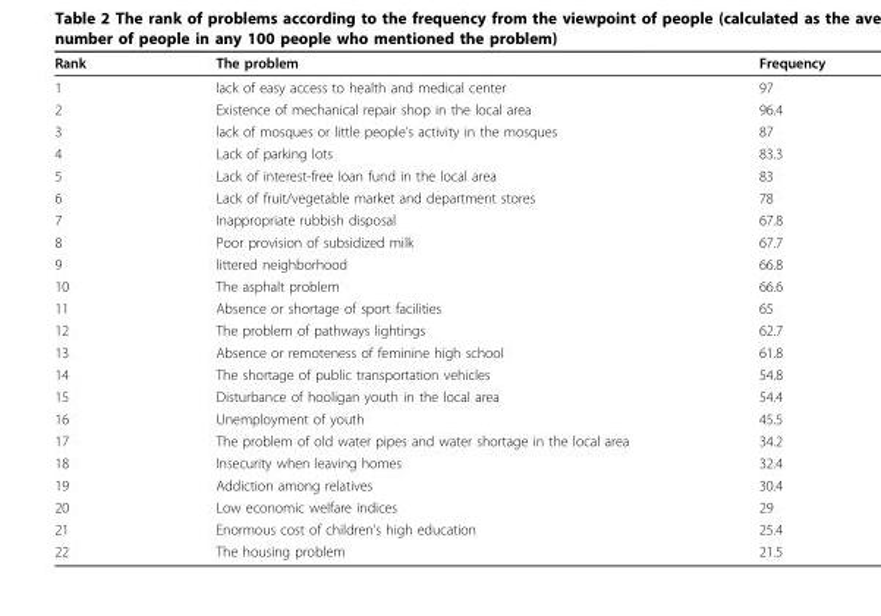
<table><thead><tr><td>Rank</td><td>The problem</td><td>Frequency</td></tr></thead><tbody><tr><td>1</td><td>lack of easy access to health and medical center</td><td>97</td></tr><tr><td>2</td><td>Existence of mechanical repair shop in the local area</td><td>96.4</td></tr><tr><td>3</td><td>lack of mosques or little people’s activity in the mosques</td><td>87</td></tr><tr><td>4</td><td>Lack of parking lots</td><td>83.3</td></tr><tr><td>5</td><td>Lack of interest-free loan fund in the local area</td><td>83</td></tr><tr><td>6</td><td>Lack of fruit/vegetable market and department stores</td><td>78</td></tr><tr><td>7</td><td>Inappropriate rubbish disposal</td><td>67.8</td></tr><tr><td>8</td><td>Poor provision of subsidized milk</td><td>67.7</td></tr><tr><td>9</td><td>littered neighborhood</td><td>66.8</td></tr><tr><td>10</td><td>The asphalt problem</td><td>66.6</td></tr><tr><td>11</td><td>Absence or shortage of sport facilities</td><td>65</td></tr><tr><td>12</td><td>The problem of pathways lightings</td><td>62.7</td></tr><tr><td>13</td><td>Absence or remoteness of feminine high school</td><td>61.8</td></tr><tr><td>14</td><td>The shortage of public transportation vehicles</td><td>54.8</td></tr><tr><td>15</td><td>Disturbance of hooligan youth in the local area</td><td>54.4</td></tr><tr><td>16</td><td>Unemployment of youth</td><td>45.5</td></tr><tr><td>17</td><td>The problem of old water pipes and water shortage in the local area</td><td>34.2</td></tr><tr><td>18</td><td>Insecurity when leaving homes</td><td>32.4</td></tr><tr><td>19</td><td>Addiction among relatives</td><td>30.4</td></tr><tr><td>20</td><td>Low economic welfare indices</td><td>29</td></tr><tr><td>21</td><td>Enormous cost of children’s high education</td><td>25.4</td></tr><tr><td>22</td><td>The housing problem</td><td>21.5</td></tr></tbody></table>